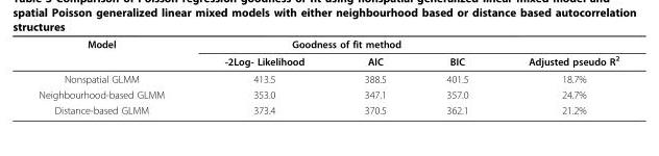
<table><thead><tr><td rowspan="2">Model</td><td colspan="3">Goodness of fit method</td><td rowspan="2">Adjusted pseudo R<sup>2</sup></td></tr><tr><td>-2Log- Likelihood</td><td>AIC</td><td>BIC</td></tr></thead><tbody><tr><td>Nonspatial GLMM</td><td>413.5</td><td>388.5</td><td>401.5</td><td>18.7%</td></tr><tr><td>Neighbourhood-based GLMM</td><td>353.0</td><td>347.1</td><td>357.0</td><td>24.7%</td></tr><tr><td>Distance-based GLMM</td><td>373.4</td><td>370.5</td><td>362.1</td><td>21.2%</td></tr></tbody></table>